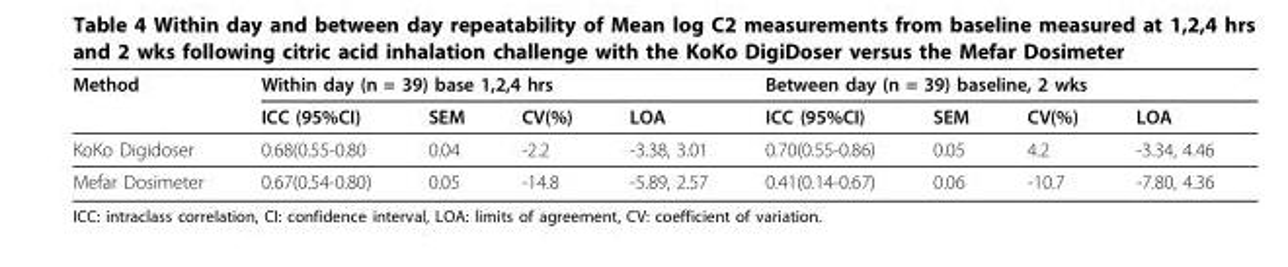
<table><thead><tr><td rowspan="2">Method</td><td colspan="4">Within day (n = 39) base 1,2,4 hrs</td><td colspan="4">Between day (n = 39) baseline, 2 wks</td></tr><tr><td>ICC (95%CI)</td><td>SEM</td><td>CV(%)</td><td>LOA</td><td>ICC (95%CI)</td><td>SEM</td><td>CV(%)</td><td>LOA</td></tr></thead><tbody><tr><td>KoKo Digidoser</td><td>0.68(0.55-0.80</td><td>0.04</td><td>-2.2</td><td>-3.38, 3.01</td><td>0.70(0.55-0.86)</td><td>0.05</td><td>4.2</td><td>-3.34, 4.46</td></tr><tr><td>Mefar Dosimeter</td><td>0.67(0.54-0.80)</td><td>0.05</td><td>-14.8</td><td>-5.89, 2.57</td><td>0.41(0.14-0.67)</td><td>0.06</td><td>-10.7</td><td>-7.80, 4.36</td></tr></tbody></table>